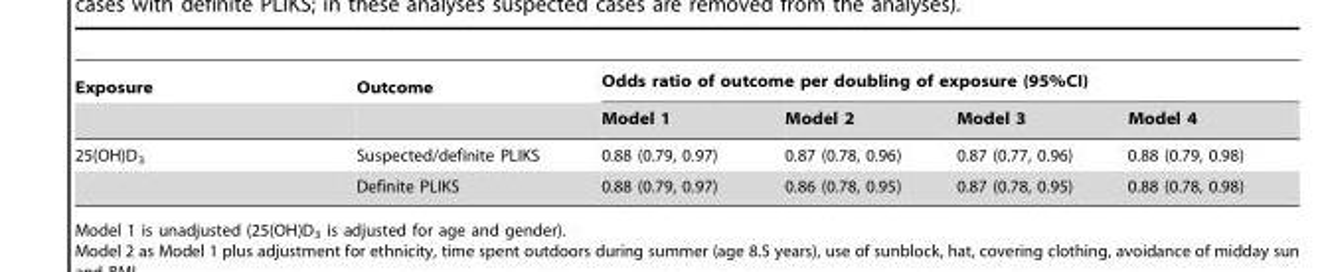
<table><thead><tr><td rowspan="2">Exposure</td><td rowspan="2">Outcome</td><td colspan="4">Odds ratio of outcome per doubling of exposure (95%CI)</td></tr><tr><td>Model 1</td><td>Model 2</td><td>Model 3</td><td>Model 4</td></tr></thead><tbody><tr><td rowspan="2">25(OH)D<sub>3</sub></td><td>Suspected/definite PLIKS</td><td>0.88 (0.79, 0.97)</td><td>0.87 (0.78, 0.96)</td><td>0.87 (0.77, 0.96)</td><td>0.88 (0.79, 0.98)</td></tr><tr><td>Definite PLIKS</td><td>0.88 (0.79, 0.97)</td><td>0.86 (0.78, 0.95)</td><td>0.87 (0.78, 0.95)</td><td>0.88 (0.78, 0.98)</td></tr></tbody></table>